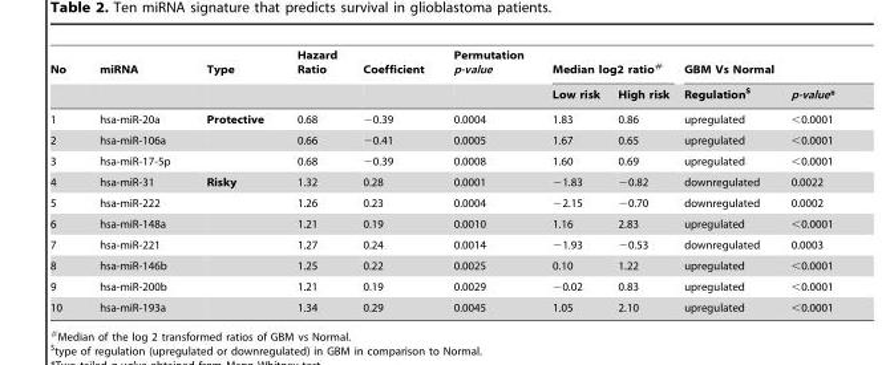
<table><thead><tr><td rowspan="2">No</td><td rowspan="2">miRNA</td><td rowspan="2">Type</td><td rowspan="2">Hazard Ratio</td><td rowspan="2">Coefficient</td><td rowspan="2">Permutation p-value</td><td colspan="2">Median log2 ratio#</td><td colspan="2">GBM Vs Normal</td></tr><tr><td>Low risk</td><td>High risk</td><td>Regulation$</td><td>p-value*</td></tr></thead><tbody><tr><td>1</td><td>hsa-miR-20a</td><td>Protective</td><td>0.68</td><td>−0.39</td><td>0.0004</td><td>1.83</td><td>0.86</td><td>upregulated</td><td>&lt;0.0001</td></tr><tr><td>2</td><td>hsa-miR-106a</td><td></td><td>0.66</td><td>−0.41</td><td>0.0005</td><td>1.67</td><td>0.65</td><td>upregulated</td><td>&lt;0.0001</td></tr><tr><td>3</td><td>hsa-miR-17-5p</td><td></td><td>0.68</td><td>−0.39</td><td>0.0008</td><td>1.60</td><td>0.69</td><td>upregulated</td><td>&lt;0.0001</td></tr><tr><td>4</td><td>hsa-miR-31</td><td>Risky</td><td>1.32</td><td>0.28</td><td>0.0001</td><td>−1.83</td><td>−0.82</td><td>downregulated</td><td>0.0022</td></tr><tr><td>5</td><td>hsa-miR-222</td><td></td><td>1.26</td><td>0.23</td><td>0.0004</td><td>−2.15</td><td>−0.70</td><td>downregulated</td><td>0.0002</td></tr><tr><td>6</td><td>hsa-miR-148a</td><td></td><td>1.21</td><td>0.19</td><td>0.0010</td><td>1.16</td><td>2.83</td><td>upregulated</td><td>&lt;0.0001</td></tr><tr><td>7</td><td>hsa-miR-221</td><td></td><td>1.27</td><td>0.24</td><td>0.0014</td><td>−1.93</td><td>−0.53</td><td>downregulated</td><td>0.0003</td></tr><tr><td>8</td><td>hsa-miR-146b</td><td></td><td>1.25</td><td>0.22</td><td>0.0025</td><td>0.10</td><td>1.22</td><td>upregulated</td><td>&lt;0.0001</td></tr><tr><td>9</td><td>hsa-miR-200b</td><td></td><td>1.21</td><td>0.19</td><td>0.0029</td><td>−0.02</td><td>0.83</td><td>upregulated</td><td>&lt;0.0001</td></tr><tr><td>10</td><td>hsa-miR-193a</td><td></td><td>1.34</td><td>0.29</td><td>0.0045</td><td>1.05</td><td>2.10</td><td>upregulated</td><td>&lt;0.0001</td></tr></tbody></table>